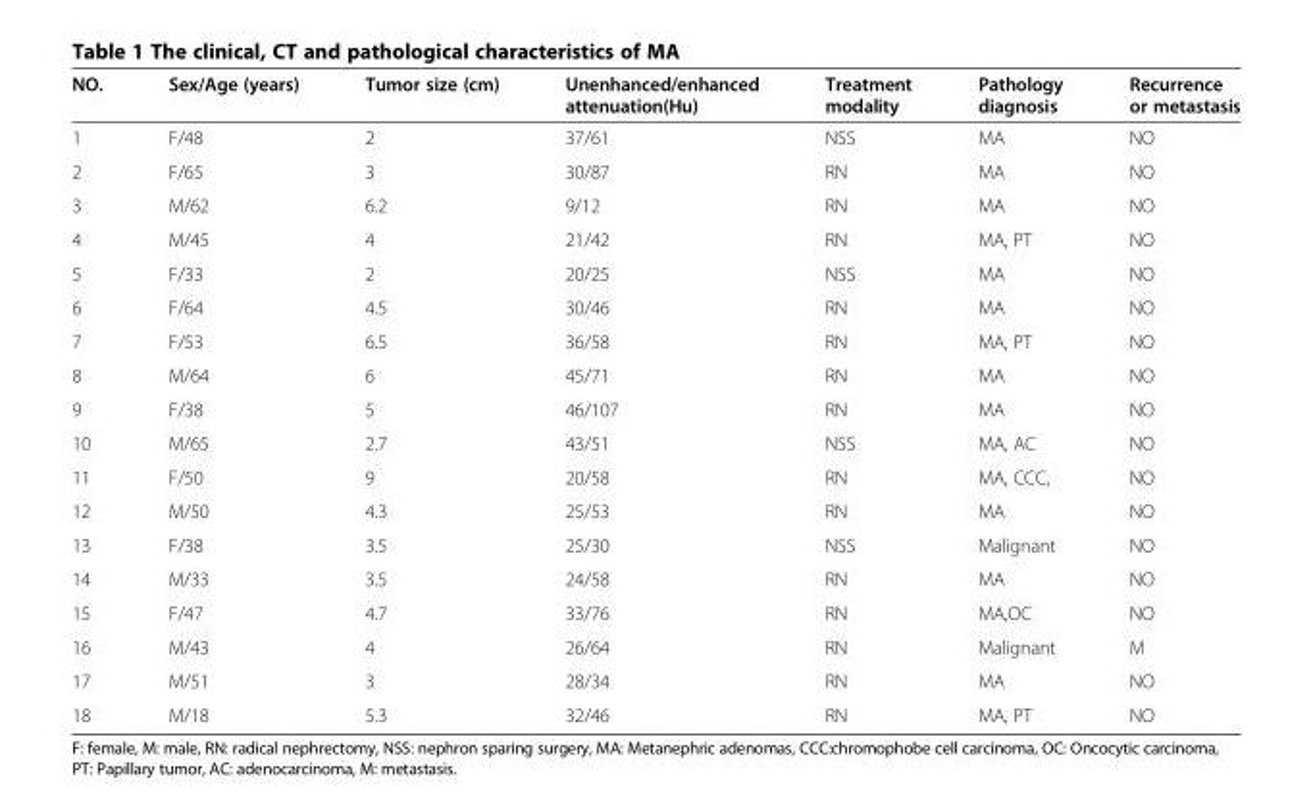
<table><thead><tr><td>NO.</td><td>Sex/Age (years)</td><td>Tumor size (cm)</td><td>Unenhanced/enhanced attenuation(Hu)</td><td>Treatment modality</td><td>Pathology diagnosis</td><td>Recurrence or metastasis</td></tr></thead><tbody><tr><td>1</td><td>F/48</td><td>2</td><td>37/61</td><td>NSS</td><td>MA</td><td>NO</td></tr><tr><td>2</td><td>F/65</td><td>3</td><td>30/87</td><td>RN</td><td>MA</td><td>NO</td></tr><tr><td>3</td><td>M/62</td><td>6.2</td><td>9/12</td><td>RN</td><td>MA</td><td>NO</td></tr><tr><td>4</td><td>M/45</td><td>4</td><td>21/42</td><td>RN</td><td>MA, PT</td><td>NO</td></tr><tr><td>5</td><td>F/33</td><td>2</td><td>20/25</td><td>NSS</td><td>MA</td><td>NO</td></tr><tr><td>6</td><td>F/64</td><td>4.5</td><td>30/46</td><td>RN</td><td>MA</td><td>NO</td></tr><tr><td>7</td><td>F/53</td><td>6.5</td><td>36/58</td><td>RN</td><td>MA, PT</td><td>NO</td></tr><tr><td>8</td><td>M/64</td><td>6</td><td>45/71</td><td>RN</td><td>MA</td><td>NO</td></tr><tr><td>9</td><td>F/38</td><td>5</td><td>46/107</td><td>RN</td><td>MA</td><td>NO</td></tr><tr><td>10</td><td>M/65</td><td>2.7</td><td>43/51</td><td>NSS</td><td>MA, AC</td><td>NO</td></tr><tr><td>11</td><td>F/50</td><td>9</td><td>20/58</td><td>RN</td><td>MA, CCC,</td><td>NO</td></tr><tr><td>12</td><td>M/50</td><td>4.3</td><td>25/53</td><td>RN</td><td>MA</td><td>NO</td></tr><tr><td>13</td><td>F/38</td><td>3.5</td><td>25/30</td><td>NSS</td><td>Malignant</td><td>NO</td></tr><tr><td>14</td><td>M/33</td><td>3.5</td><td>24/58</td><td>RN</td><td>MA</td><td>NO</td></tr><tr><td>15</td><td>F/47</td><td>4.7</td><td>33/76</td><td>RN</td><td>MA,OC</td><td>NO</td></tr><tr><td>16</td><td>M/43</td><td>4</td><td>26/64</td><td>RN</td><td>Malignant</td><td>M</td></tr><tr><td>17</td><td>M/51</td><td>3</td><td>28/34</td><td>RN</td><td>MA</td><td>NO</td></tr><tr><td>18</td><td>M/18</td><td>5.3</td><td>32/46</td><td>RN</td><td>MA, PT</td><td>NO</td></tr></tbody></table>